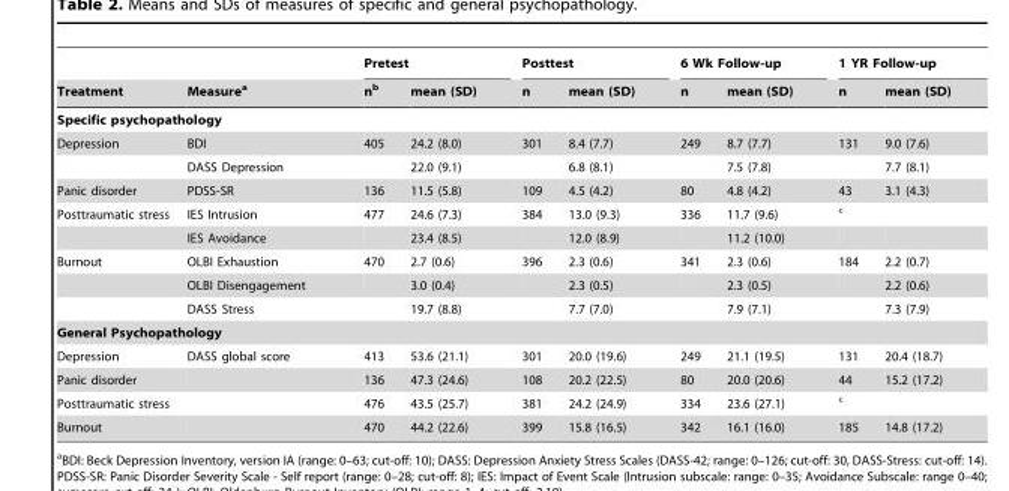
<table><thead><tr><td rowspan="2">Treatment</td><td rowspan="2">Measure<sup>a</sup></td><td colspan="2">Pretest</td><td colspan="2">Posttest</td><td colspan="2">6 Wk Follow-up</td><td colspan="2">1 YR Follow-up</td></tr><tr><td>n<sup>b</sup></td><td>mean (SD)</td><td>n</td><td>mean (SD)</td><td>n</td><td>mean (SD)</td><td>n</td><td>mean (SD)</td></tr></thead><tbody><tr><td colspan="10">Specific psychopathology</td></tr><tr><td rowspan="2">Depression</td><td>BDI</td><td>405</td><td>24.2 (8.0)</td><td>301</td><td>8.4 (7.7)</td><td>249</td><td>8.7 (7.7)</td><td>131</td><td>9.0 (7.6)</td></tr><tr><td>DASS Depression</td><td></td><td>22.0 (9.1)</td><td></td><td>6.8 (8.1)</td><td></td><td>7.5 (7.8)</td><td></td><td>7.7 (8.1)</td></tr><tr><td>Panic disorder</td><td>PDSS-SR</td><td>136</td><td>11.5 (5.8)</td><td>109</td><td>4.5 (4.2)</td><td>80</td><td>4.8 (4.2)</td><td>43</td><td>3.1 (4.3)</td></tr><tr><td rowspan="2">Posttraumatic stress</td><td>IES Intrusion</td><td>477</td><td>24.6 (7.3)</td><td>384</td><td>13.0 (9.3)</td><td>336</td><td>11.7 (9.6)</td><td>c</td><td></td></tr><tr><td>IES Avoidance</td><td></td><td>23.4 (8.5)</td><td></td><td>12.0 (8.9)</td><td></td><td>11.2 (10.0)</td><td></td><td></td></tr><tr><td rowspan="3">Burnout</td><td>OLBI Exhaustion</td><td>470</td><td>2.7 (0.6)</td><td>396</td><td>2.3 (0.6)</td><td>341</td><td>2.3 (0.6)</td><td>184</td><td>2.2 (0.7)</td></tr><tr><td>OLBI Disengagement</td><td></td><td>3.0 (0.4)</td><td></td><td>2.3 (0.5)</td><td></td><td>2.3 (0.5)</td><td></td><td>2.2 (0.6)</td></tr><tr><td>DASS Stress</td><td></td><td>19.7 (8.8)</td><td></td><td>7.7 (7.0)</td><td></td><td>7.9 (7.1)</td><td></td><td>7.3 (7.9)</td></tr><tr><td colspan="10">General Psychopathology</td></tr><tr><td>Depression</td><td>DASS global score</td><td>413</td><td>53.6 (21.1)</td><td>301</td><td>20.0 (19.6)</td><td>249</td><td>21.1 (19.5)</td><td>131</td><td>20.4 (18.7)</td></tr><tr><td>Panic disorder</td><td></td><td>136</td><td>47.3 (24.6)</td><td>108</td><td>20.2 (22.5)</td><td>80</td><td>20.0 (20.6)</td><td>44</td><td>15.2 (17.2)</td></tr><tr><td>Posttraumatic stress</td><td></td><td>476</td><td>43.5 (25.7)</td><td>381</td><td>24.2 (24.9)</td><td>334</td><td>23.6 (27.1)</td><td>c</td><td></td></tr><tr><td>Burnout</td><td></td><td>470</td><td>44.2 (22.6)</td><td>399</td><td>15.8 (16.5)</td><td>342</td><td>16.1 (16.0)</td><td>185</td><td>14.8 (17.2)</td></tr></tbody></table>